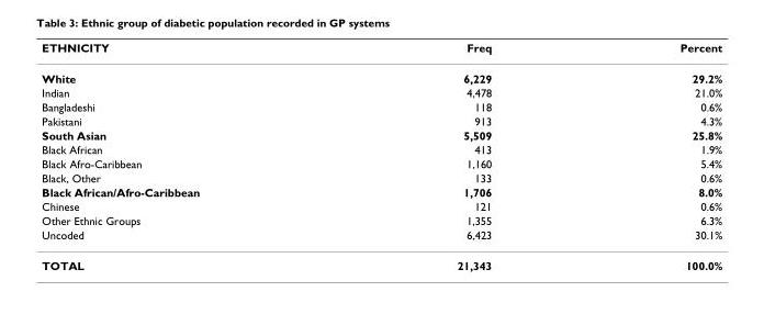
<table><thead><tr><td>ETHNICITY</td><td>Freq</td><td>Percent</td></tr></thead><tbody><tr><td>White</td><td>6,229</td><td>29.2%</td></tr><tr><td>Indian</td><td>4,478</td><td>21.0%</td></tr><tr><td>Bangladeshi</td><td>118</td><td>0.6%</td></tr><tr><td>Pakistani</td><td>913</td><td>4.3%</td></tr><tr><td>South Asian</td><td>5,509</td><td>25.8%</td></tr><tr><td>Black African</td><td>413</td><td>1.9%</td></tr><tr><td>Black Afro-Caribbean</td><td>1,160</td><td>5.4%</td></tr><tr><td>Black, Other</td><td>133</td><td>0.6%</td></tr><tr><td>Black African/Afro-Caribbean</td><td>1,706</td><td>8.0%</td></tr><tr><td>Chinese</td><td>121</td><td>0.6%</td></tr><tr><td>Other Ethnic Groups</td><td>1,355</td><td>6.3%</td></tr><tr><td>Uncoded</td><td>6,423</td><td>30.1%</td></tr><tr><td>TOTAL</td><td>21,343</td><td>100.0%</td></tr></tbody></table>